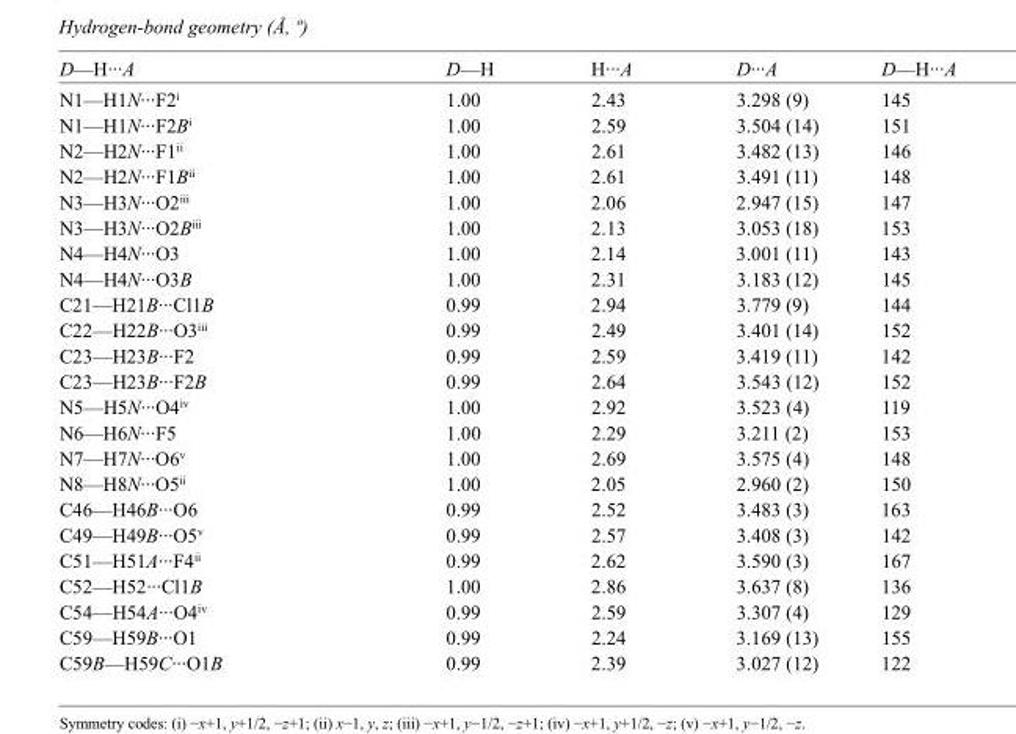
<table><tbody><tr><td>D—H···A</td><td>D—H</td><td>H···A</td><td>D···A</td><td>D—H···A</td></tr><tr><td>N1—H1N···F2<sup>i</sup></td><td>1.00</td><td>2.43</td><td>3.298 (9)</td><td>145</td></tr><tr><td>N1—H1N···F2B<sup>i</sup></td><td>1.00</td><td>2.59</td><td>3.504 (14)</td><td>151</td></tr><tr><td>N2—H2N···F1<sup>ii</sup></td><td>1.00</td><td>2.61</td><td>3.482 (13)</td><td>146</td></tr><tr><td>N2—H2N···F1B<sup>ii</sup></td><td>1.00</td><td>2.61</td><td>3.491 (11)</td><td>148</td></tr><tr><td>N3—H3N···O2<sup>iii</sup></td><td>1.00</td><td>2.06</td><td>2.947 (15)</td><td>147</td></tr><tr><td>N3—H3N···O2B<sup>iii</sup></td><td>1.00</td><td>2.13</td><td>3.053 (18)</td><td>153</td></tr><tr><td>N4—H4N···O3</td><td>1.00</td><td>2.14</td><td>3.001 (11)</td><td>143</td></tr><tr><td>N4—H4N···O3B</td><td>1.00</td><td>2.31</td><td>3.183 (12)</td><td>145</td></tr><tr><td>C21—H21B···Cl1B</td><td>0.99</td><td>2.94</td><td>3.779 (9)</td><td>144</td></tr><tr><td>C22—H22B···O3<sup>iii</sup></td><td>0.99</td><td>2.49</td><td>3.401 (14)</td><td>152</td></tr><tr><td>C23—H23B···F2</td><td>0.99</td><td>2.59</td><td>3.419 (11)</td><td>142</td></tr><tr><td>C23—H23B···F2B</td><td>0.99</td><td>2.64</td><td>3.543 (12)</td><td>152</td></tr><tr><td>N5—H5N···O4<sup>iv</sup></td><td>1.00</td><td>2.92</td><td>3.523 (4)</td><td>119</td></tr><tr><td>N6—H6N···F5</td><td>1.00</td><td>2.29</td><td>3.211 (2)</td><td>153</td></tr><tr><td>N7—H7N···O6<sup>v</sup></td><td>1.00</td><td>2.69</td><td>3.575 (4)</td><td>148</td></tr><tr><td>N8—H8N···O5<sup>ii</sup></td><td>1.00</td><td>2.05</td><td>2.960 (2)</td><td>150</td></tr><tr><td>C46—H46B···O6</td><td>0.99</td><td>2.52</td><td>3.483 (3)</td><td>163</td></tr><tr><td>C49—H49B···O5<sup>v</sup></td><td>0.99</td><td>2.57</td><td>3.408 (3)</td><td>142</td></tr><tr><td>C51—H51A···F4<sup>ii</sup></td><td>0.99</td><td>2.62</td><td>3.590 (3)</td><td>167</td></tr><tr><td>C52—H52···Cl1B</td><td>1.00</td><td>2.86</td><td>3.637 (8)</td><td>136</td></tr><tr><td>C54—H54A···O4<sup>iv</sup></td><td>0.99</td><td>2.59</td><td>3.307 (4)</td><td>129</td></tr><tr><td>C59—H59B···O1</td><td>0.99</td><td>2.24</td><td>3.169 (13)</td><td>155</td></tr><tr><td>C59B—H59C···O1B</td><td>0.99</td><td>2.39</td><td>3.027 (12)</td><td>122</td></tr></tbody></table>